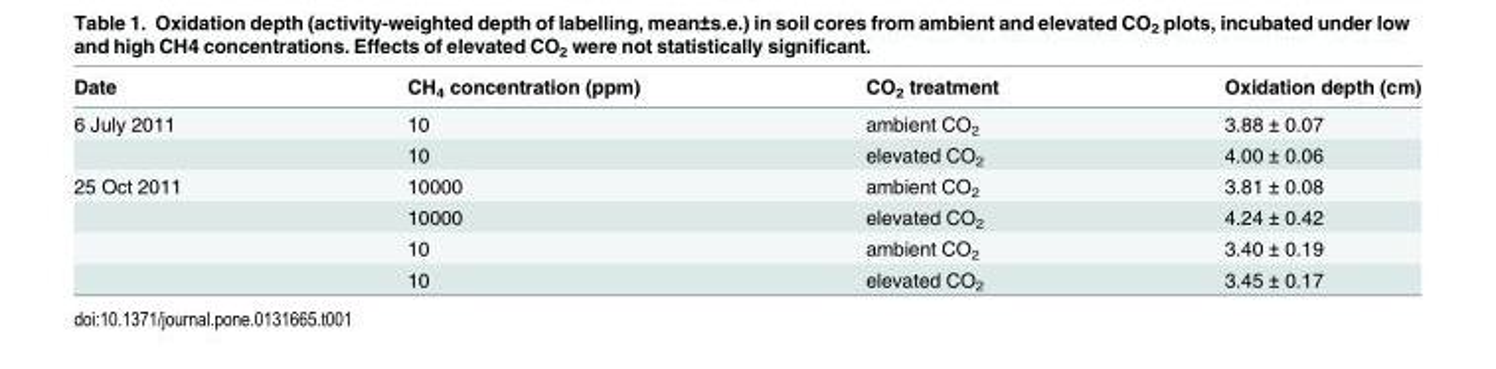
<table><thead><tr><td>Date</td><td>CH<sub>4</sub> concentration (ppm)</td><td>CO<sub>2</sub> treatment</td><td>Oxidation depth (cm)</td></tr></thead><tbody><tr><td rowspan="2">6 July 2011</td><td>10</td><td>ambient CO<sub>2</sub></td><td>3.88 ± 0.07</td></tr><tr><td>10</td><td>elevated CO<sub>2</sub></td><td>4.00 ± 0.06</td></tr><tr><td rowspan="4">25 Oct 2011</td><td>10000</td><td>ambient CO<sub>2</sub></td><td>3.81 ± 0.08</td></tr><tr><td>10000</td><td>elevated CO<sub>2</sub></td><td>4.24 ± 0.42</td></tr><tr><td>10</td><td>ambient CO<sub>2</sub></td><td>3.40 ± 0.19</td></tr><tr><td>10</td><td>elevated CO<sub>2</sub></td><td>3.45 ± 0.17</td></tr></tbody></table>